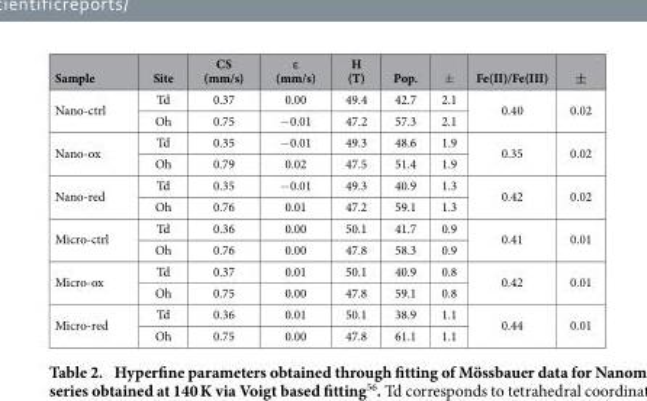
<table><thead><tr><td>Sample</td><td>Site</td><td>CS (mm/s)</td><td>ε (mm/s)</td><td>H (T)</td><td>Pop.</td><td>±</td><td>Fe(II)/Fe(III)</td><td>±</td></tr></thead><tbody><tr><td rowspan="2">Nano-ctrl</td><td>Td</td><td>0.37</td><td>0.00</td><td>49.4</td><td>42.7</td><td>2.1</td><td rowspan="2">0.40</td><td rowspan="2">0.02</td></tr><tr><td>Oh</td><td>0.75</td><td>− 0.01</td><td>47.2</td><td>57.3</td><td>2.1</td></tr><tr><td rowspan="2">Nano-ox</td><td>Td</td><td>0.35</td><td>− 0.01</td><td>49.3</td><td>48.6</td><td>1.9</td><td rowspan="2">0.35</td><td rowspan="2">0.02</td></tr><tr><td>Oh</td><td>0.79</td><td>0.02</td><td>47.5</td><td>51.4</td><td>1.9</td></tr><tr><td rowspan="2">Nano-red</td><td>Td</td><td>0.35</td><td>− 0.01</td><td>49.3</td><td>40.9</td><td>1.3</td><td rowspan="2">0.42</td><td rowspan="2">0.02</td></tr><tr><td>Oh</td><td>0.76</td><td>0.01</td><td>47.2</td><td>59.1</td><td>1.3</td></tr><tr><td rowspan="2">Micro-ctrl</td><td>Td</td><td>0.36</td><td>0.00</td><td>50.1</td><td>41.7</td><td>0.9</td><td rowspan="2">0.41</td><td rowspan="2">0.01</td></tr><tr><td>Oh</td><td>0.76</td><td>0.00</td><td>47.8</td><td>58.3</td><td>0.9</td></tr><tr><td rowspan="2">Micro-ox</td><td>Td</td><td>0.37</td><td>0.01</td><td>50.1</td><td>40.9</td><td>0.8</td><td rowspan="2">0.42</td><td rowspan="2">0.01</td></tr><tr><td>Oh</td><td>0.75</td><td>0.00</td><td>47.8</td><td>59.1</td><td>0.8</td></tr><tr><td rowspan="2">Micro-red</td><td>Td</td><td>0.36</td><td>0.01</td><td>50.1</td><td>38.9</td><td>1.1</td><td rowspan="2">0.44</td><td rowspan="2">0.01</td></tr><tr><td>Oh</td><td>0.75</td><td>0.00</td><td>47.8</td><td>61.1</td><td>1.1</td></tr></tbody></table>